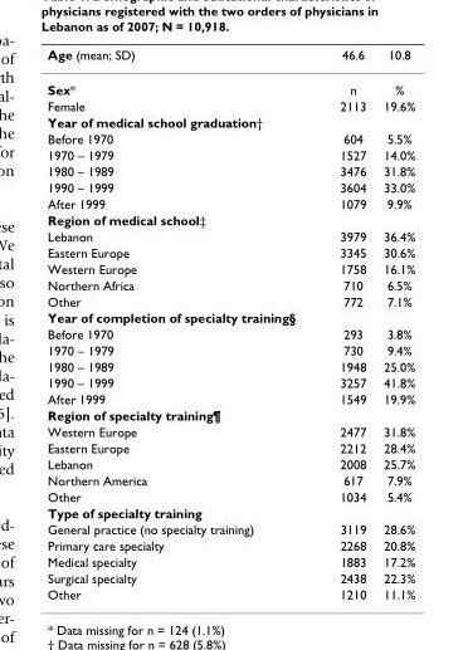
<table><thead><tr><td>Age (mean; SD)</td><td>46.6</td><td>10.8</td></tr></thead><tbody><tr><td>Sex*</td><td>n</td><td>%</td></tr><tr><td>Female</td><td>2113</td><td>19.6%</td></tr><tr><td colspan="3">Year of medical school graduation†</td></tr><tr><td>Before 1970</td><td>604</td><td>5.5%</td></tr><tr><td>1970 – 1979</td><td>1527</td><td>14.0%</td></tr><tr><td>1980 – 1989</td><td>3476</td><td>31.8%</td></tr><tr><td>1990 – 1999</td><td>3604</td><td>33.0%</td></tr><tr><td>After 1999</td><td>1079</td><td>9.9%</td></tr><tr><td colspan="3">Region of medical school‡</td></tr><tr><td>Lebanon</td><td>3979</td><td>36.4%</td></tr><tr><td>Eastern Europe</td><td>3345</td><td>30.6%</td></tr><tr><td>Western Europe</td><td>1758</td><td>16.1%</td></tr><tr><td>Northern Africa</td><td>710</td><td>6.5%</td></tr><tr><td>Other</td><td>772</td><td>7.1%</td></tr><tr><td colspan="3">Year of completion of specialty training§</td></tr><tr><td>Before 1970</td><td>293</td><td>3.8%</td></tr><tr><td>1970 – 1979</td><td>730</td><td>9.4%</td></tr><tr><td>1980 – 1989</td><td>1948</td><td>25.0%</td></tr><tr><td>1990 – 1999</td><td>3257</td><td>41.8%</td></tr><tr><td>After 1999</td><td>1549</td><td>19.9%</td></tr><tr><td colspan="3">Region of specialty training¶</td></tr><tr><td>Western Europe</td><td>2477</td><td>31.8%</td></tr><tr><td>Eastern Europe</td><td>2212</td><td>28.4%</td></tr><tr><td>Lebanon</td><td>2008</td><td>25.7%</td></tr><tr><td>Northern America</td><td>617</td><td>7.9%</td></tr><tr><td>Other</td><td>1034</td><td>5.4%</td></tr><tr><td colspan="3">Type of specialty training</td></tr><tr><td>General practice (no specialty training)</td><td>3119</td><td>28.6%</td></tr><tr><td>Primary care specialty</td><td>2268</td><td>20.8%</td></tr><tr><td>Medical specialty</td><td>1883</td><td>17.2%</td></tr><tr><td>Surgical specialty</td><td>2438</td><td>22.3%</td></tr><tr><td>Other</td><td>1210</td><td>11.1%</td></tr></tbody></table>